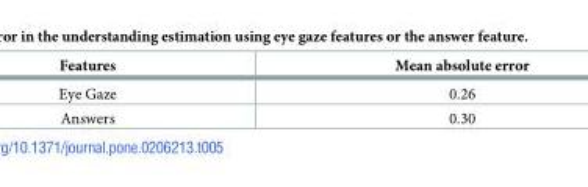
<table><thead><tr><td>Features</td><td>Mean absolute error</td></tr></thead><tbody><tr><td>Eye Gaze</td><td>0.26</td></tr><tr><td>Answers</td><td>0.30</td></tr></tbody></table>